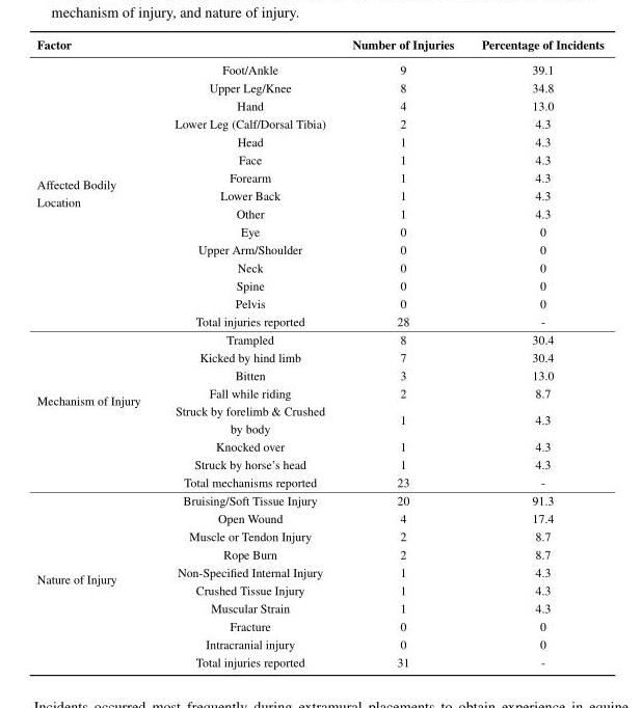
<table><thead><tr><td>Factor</td><td></td><td>Number of Injuries</td><td>Percentage of Incidents</td></tr></thead><tbody><tr><td rowspan="15">Affected Bodily Location</td><td>Foot/Ankle</td><td>9</td><td>39.1</td></tr><tr><td>Upper Leg/Knee</td><td>8</td><td>34.8</td></tr><tr><td>Hand</td><td>4</td><td>13.0</td></tr><tr><td>Lower Leg (Calf/Dorsal Tibia)</td><td>2</td><td>4.3</td></tr><tr><td>Head</td><td>1</td><td>4.3</td></tr><tr><td>Face</td><td>1</td><td>4.3</td></tr><tr><td>Forearm</td><td>1</td><td>4.3</td></tr><tr><td>Lower Back</td><td>1</td><td>4.3</td></tr><tr><td>Other</td><td>1</td><td>4.3</td></tr><tr><td>Eye</td><td>0</td><td>0</td></tr><tr><td>Upper Arm/Shoulder</td><td>0</td><td>0</td></tr><tr><td>Neck</td><td>0</td><td>0</td></tr><tr><td>Spine</td><td>0</td><td>0</td></tr><tr><td>Pelvis</td><td>0</td><td>0</td></tr><tr><td>Total injuries reported</td><td>28</td><td>-</td></tr><tr><td rowspan="8">Mechanism of Injury</td><td>Trampled</td><td>8</td><td>30.4</td></tr><tr><td>Kicked by hind limb</td><td>7</td><td>30.4</td></tr><tr><td>Bitten</td><td>3</td><td>13.0</td></tr><tr><td>Fall while riding</td><td>2</td><td>8.7</td></tr><tr><td>Struck by forelimb &amp; Crushed by body</td><td>1</td><td>4.3</td></tr><tr><td>Knocked over</td><td>1</td><td>4.3</td></tr><tr><td>Struck by horse’s head</td><td>1</td><td>4.3</td></tr><tr><td>Total mechanisms reported</td><td>23</td><td>-</td></tr><tr><td rowspan="10">Nature of Injury</td><td>Bruising/Soft Tissue Injury</td><td>20</td><td>91.3</td></tr><tr><td>Open Wound</td><td>4</td><td>17.4</td></tr><tr><td>Muscle or Tendon Injury</td><td>2</td><td>8.7</td></tr><tr><td>Rope Burn</td><td>2</td><td>8.7</td></tr><tr><td>Non-Specified Internal Injury</td><td>1</td><td>4.3</td></tr><tr><td>Crushed Tissue Injury</td><td>1</td><td>4.3</td></tr><tr><td>Muscular Strain</td><td>1</td><td>4.3</td></tr><tr><td>Fracture</td><td>0</td><td>0</td></tr><tr><td>Intracranial injury</td><td>0</td><td>0</td></tr><tr><td>Total injuries reported</td><td>31</td><td>-</td></tr></tbody></table>